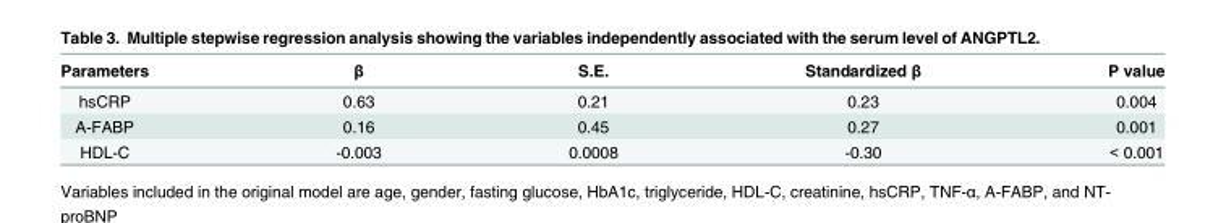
<table><thead><tr><td>Parameters</td><td>β</td><td>S.E.</td><td>Standardized β</td><td>P value</td></tr></thead><tbody><tr><td>hsCRP</td><td>0.63</td><td>0.21</td><td>0.23</td><td>0.004</td></tr><tr><td>A-FABP</td><td>0.16</td><td>0.45</td><td>0.27</td><td>0.001</td></tr><tr><td>HDL-C</td><td>-0.003</td><td>0.0008</td><td>-0.30</td><td>&lt; 0.001</td></tr></tbody></table>